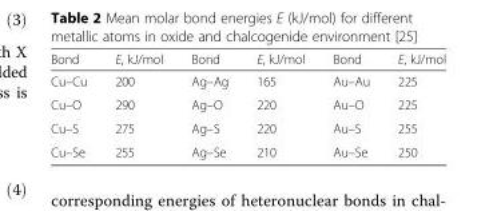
<table><thead><tr><td>Bond</td><td>Е, kJ/mol</td><td>Bond</td><td>Е, kJ/mol</td><td>Bond</td><td>Е, kJ/mol</td></tr></thead><tbody><tr><td>Cu–Cu</td><td>200</td><td>Ag–Ag</td><td>165</td><td>Au–Au</td><td>225</td></tr><tr><td>Cu–O</td><td>290</td><td>Ag–O</td><td>220</td><td>Au–O</td><td>225</td></tr><tr><td>Cu–S</td><td>275</td><td>Ag–S</td><td>220</td><td>Au–S</td><td>255</td></tr><tr><td>Cu–Se</td><td>255</td><td>Ag–Se</td><td>210</td><td>Au–Se</td><td>250</td></tr></tbody></table>